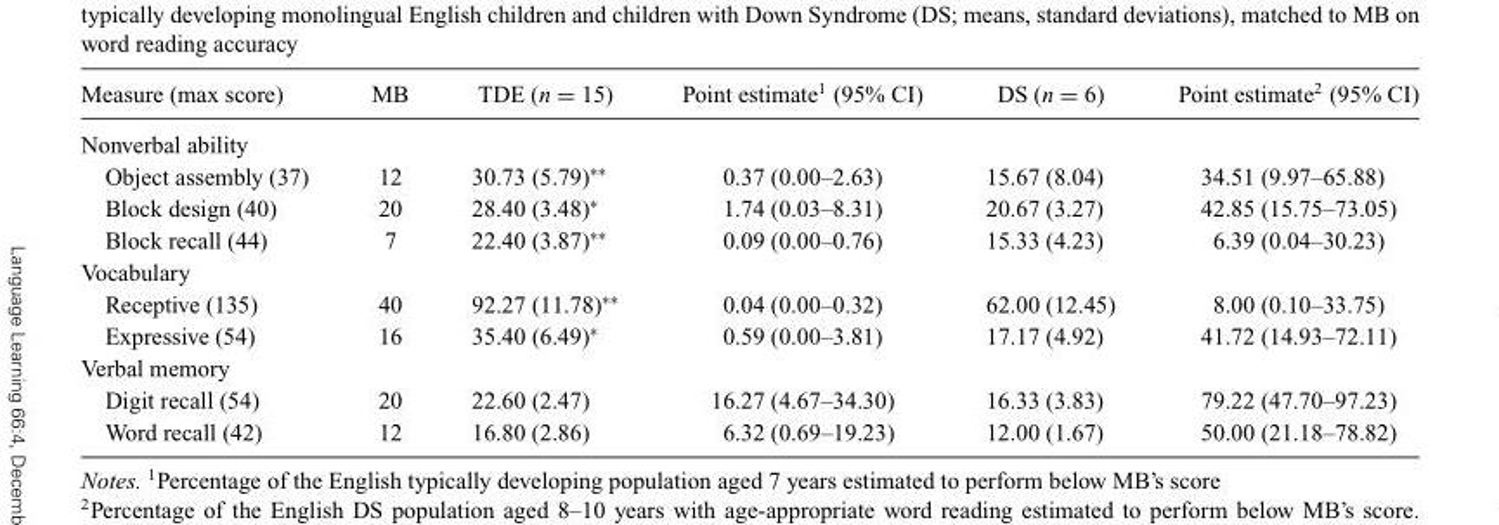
<table><thead><tr><td>Measure (max score)</td><td>MB</td><td>TDE (n = 15)</td><td>Point estimate<sup>1</sup> (95% CI)</td><td>DS (n = 6)</td><td>Point estimate<sup>2</sup> (95% CI)</td></tr></thead><tbody><tr><td colspan="6">Nonverbal ability</td></tr><tr><td>Object assembly (37)</td><td>12</td><td>30.73 (5.79)∗∗</td><td>0.37 (0.00–2.63)</td><td>15.67 (8.04)</td><td>34.51 (9.97–65.88)</td></tr><tr><td>Block design (40)</td><td>20</td><td>28.40 (3.48)∗</td><td>1.74 (0.03–8.31)</td><td>20.67 (3.27)</td><td>42.85 (15.75–73.05)</td></tr><tr><td>Block recall (44)</td><td>7</td><td>22.40 (3.87)∗∗</td><td>0.09 (0.00–0.76)</td><td>15.33 (4.23)</td><td>6.39 (0.04–30.23)</td></tr><tr><td colspan="6">Vocabulary</td></tr><tr><td>Receptive (135)</td><td>40</td><td>92.27 (11.78)∗∗</td><td>0.04 (0.00–0.32)</td><td>62.00 (12.45)</td><td>8.00 (0.10–33.75)</td></tr><tr><td>Expressive (54)</td><td>16</td><td>35.40 (6.49)∗</td><td>0.59 (0.00–3.81)</td><td>17.17 (4.92)</td><td>41.72 (14.93–72.11)</td></tr><tr><td colspan="6">Verbal memory</td></tr><tr><td>Digit recall (54)</td><td>20</td><td>22.60 (2.47)</td><td>16.27 (4.67–34.30)</td><td>16.33 (3.83)</td><td>79.22 (47.70–97.23)</td></tr><tr><td>Word recall (42)</td><td>12</td><td>16.80 (2.86)</td><td>6.32 (0.69–19.23)</td><td>12.00 (1.67)</td><td>50.00 (21.18–78.82)</td></tr></tbody></table>